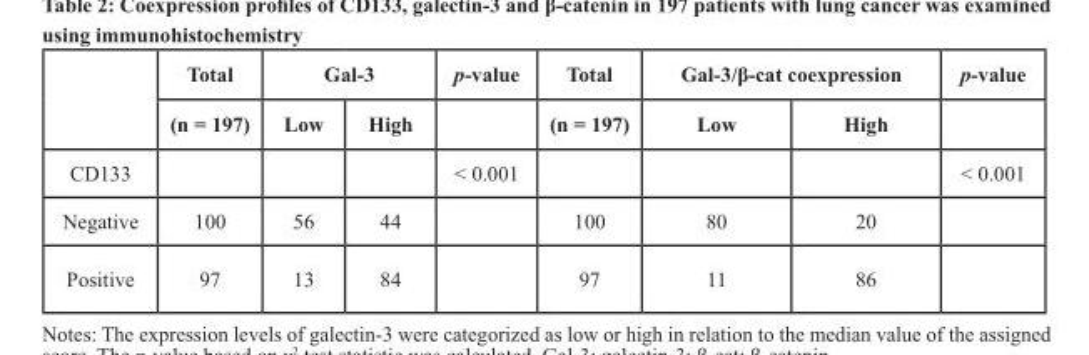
<table><thead><tr><td rowspan="2"></td><td rowspan="2">Total (n = 197)</td><td colspan="2">Gal-3</td><td rowspan="2">p-value</td><td rowspan="2">Total (n = 197)</td><td colspan="2">Gal-3/β-cat coexpression</td><td rowspan="2">p-value</td></tr><tr><td>Low</td><td>High</td><td>Low</td><td>High</td></tr></thead><tbody><tr><td>CD133</td><td></td><td></td><td></td><td>&lt; 0.001</td><td></td><td></td><td></td><td>&lt; 0.001</td></tr><tr><td>Negative</td><td>100</td><td>56</td><td>44</td><td></td><td>100</td><td>80</td><td>20</td><td></td></tr><tr><td>Positive</td><td>97</td><td>13</td><td>84</td><td></td><td>97</td><td>11</td><td>86</td><td></td></tr></tbody></table>